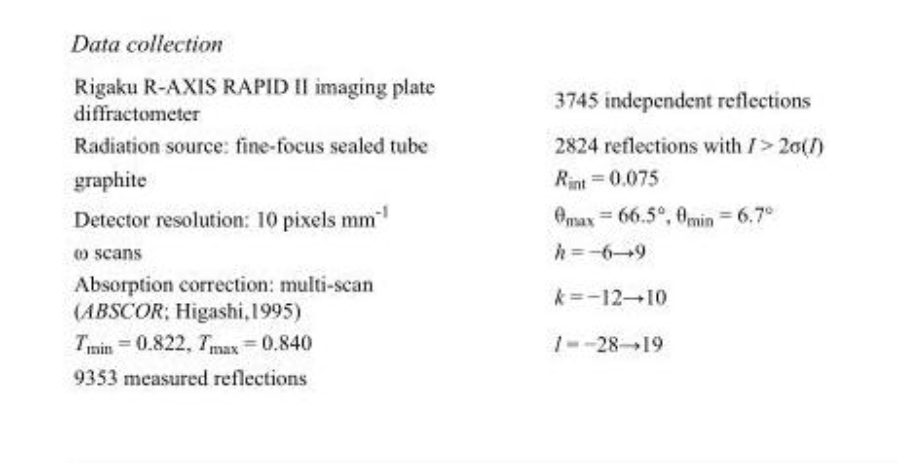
<table><tbody><tr><td>Rigaku R-AXIS RAPID II imaging plate diffractometer</td><td>3745 independent reflections</td></tr><tr><td>Radiation source: fine-focus sealed tube</td><td>2824 reflections with I &gt; 2σ(I)</td></tr><tr><td>graphite</td><td>R<sub>int</sub> = 0.075</td></tr><tr><td>Detector resolution: 10 pixels mm<sup>-1</sup></td><td>θ<sub>max</sub> = 66.5°, θ<sub>min</sub> = 6.7°</td></tr><tr><td>ω scans</td><td>h = −6→9</td></tr><tr><td>Absorption correction: multi-scan (ABSCOR; Higashi,1995)</td><td>k = −12→10</td></tr><tr><td>T<sub>min</sub> = 0.822, T<sub>max</sub> = 0.840</td><td>l = −28→19</td></tr><tr><td>9353 measured reflections</td><td></td></tr></tbody></table>